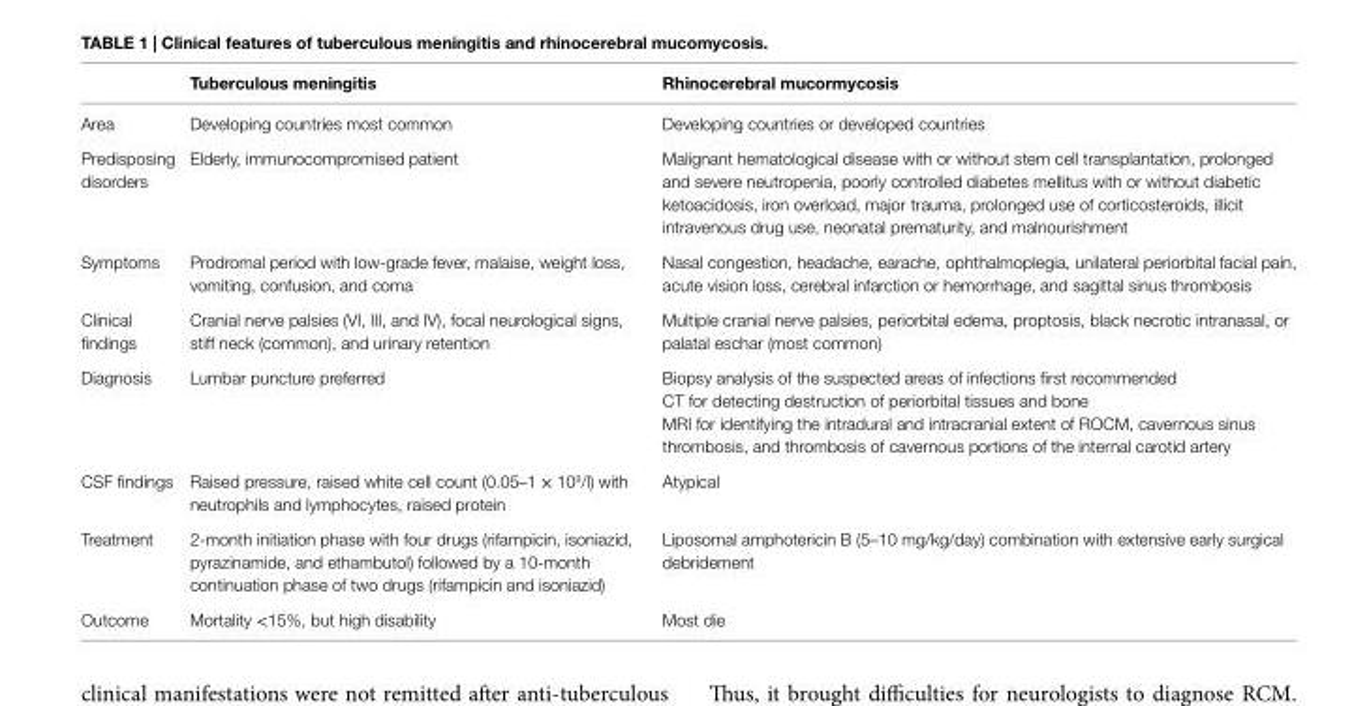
<table><thead><tr><td></td><td>tuberculous meningitis</td><td>Rhinocerebral mucormycosis</td></tr></thead><tbody><tr><td>Area</td><td>Developing countries most common</td><td>Developing countries or developed countries</td></tr><tr><td>Predisposing disorders</td><td>Elderly, immunocompromised patient</td><td>Malignant hematological disease with or without stem cell transplantation, prolonged and severe neutropenia, poorly controlled diabetes mellitus with or without diabetic ketoacidosis, iron overload, major trauma, prolonged use of corticosteroids, illicit intravenous drug use, neonatal prematurity, and malnourishment</td></tr><tr><td>Symptoms</td><td>Prodromal period with low-grade fever, malaise, weight loss, vomiting, confusion, and coma</td><td>Nasal congestion, headache, earache, ophthalmoplegia, unilateral periorbital facial pain, acute vision loss, cerebral infarction or hemorrhage, and sagittal sinus thrombosis</td></tr><tr><td>Clinical findings</td><td>Cranial nerve palsies (VI, III, and IV), focal neurological signs, stiff neck (common), and urinary retention</td><td>Multiple cranial nerve palsies, periorbital edema, proptosis, black necrotic intranasal, or palatal eschar (most common)</td></tr><tr><td rowspan="3">Diagnosis</td><td rowspan="3">Lumbar puncture preferred</td><td>Biopsy analysis of the suspected areas of infections first recommended</td></tr><tr><td>CT for detecting destruction of periorbital tissues and bone</td></tr><tr><td>MRI for identifying the intradural and intracranial extent of ROCM, cavernous sinus thrombosis, and thrombosis of cavernous portions of the internal carotid artery</td></tr><tr><td>CSF findings</td><td>Raised pressure, raised white cell count (0.05–1 × 10<sup>9</sup>/l) with neutrophils and lymphocytes, raised protein</td><td>Atypical</td></tr><tr><td>Treatment</td><td>2-month initiation phase with four drugs (rifampicin, isoniazid, pyrazinamide, and ethambutol) followed by a 10-month continuation phase of two drugs (rifampicin and isoniazid)</td><td>Liposomal amphotericin B (5–10 mg/kg/day) combination with extensive early surgical debridement</td></tr><tr><td>Outcome</td><td>Mortality &lt;15%, but high disability</td><td>Most die</td></tr></tbody></table>